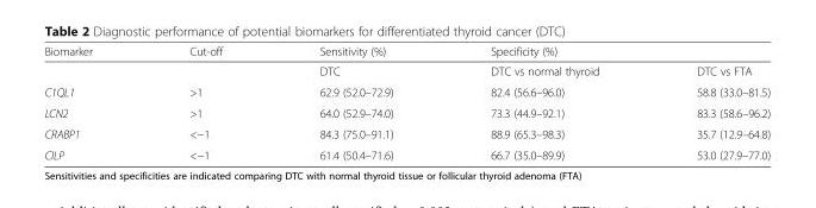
<table><thead><tr><td rowspan="2">Biomarker</td><td rowspan="2">Cut-off</td><td rowspan="2">Sensitivity (%) DTC</td><td colspan="2">Specificity (%)</td></tr><tr><td>DTC vs normal thyroid</td><td>DTC vs FTA</td></tr></thead><tbody><tr><td>C1QL1</td><td>&gt;1</td><td>62.9 (52.0–72.9)</td><td>82.4 (56.6–96.0)</td><td>58.8 (33.0–81.5)</td></tr><tr><td>LCN2</td><td>&gt;1</td><td>64.0 (52.9–74.0)</td><td>73.3 (44.9–92.1)</td><td>83.3 (58.6–96.2)</td></tr><tr><td>CRABP1</td><td>&lt;−1</td><td>84.3 (75.0–91.1)</td><td>88.9 (65.3–98.3)</td><td>35.7 (12.9–64.8)</td></tr><tr><td>CILP</td><td>&lt;−1</td><td>61.4 (50.4–71.6)</td><td>66.7 (35.0–89.9)</td><td>53.0 (27.9–77.0)</td></tr></tbody></table>